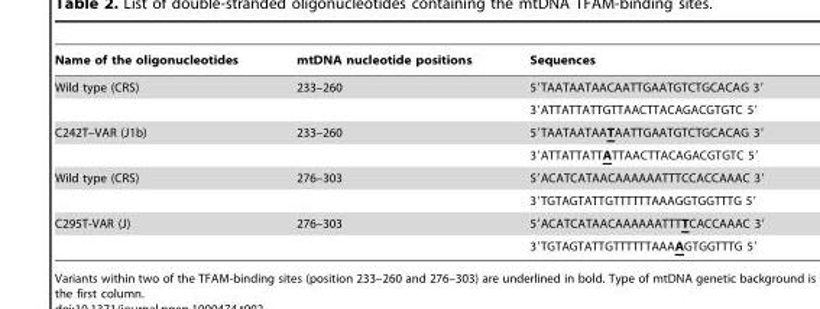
<table><thead><tr><td>Name of the oligonucleotides</td><td>mtDNA nucleotide positions</td><td>Sequences</td></tr></thead><tbody><tr><td rowspan="2">Wild type (CRS)</td><td>233–260</td><td>5′TAATAATAACAATTGAATGTCTGCACAG 3′</td></tr><tr><td></td><td>3′ATTATTATTGTTAACTTACAGACGTGTC 5′</td></tr><tr><td rowspan="2">C242T–VAR (J1b)</td><td>233–260</td><td>5′TAATAATAATAATTGAATGTCTGCACAG 3′</td></tr><tr><td></td><td>3′ATTATTATTATTAACTTACAGACGTGTC 5′</td></tr><tr><td rowspan="2">Wild type (CRS)</td><td>276–303</td><td>5′ACATCATAACAAAAAATTTCCACCAAAC 3′</td></tr><tr><td></td><td>3′TGTAGTATTGTTTTTTAAAGGTGGTTTG 5′</td></tr><tr><td rowspan="2">C295T-VAR (J)</td><td>276–303</td><td>5′ACATCATAACAAAAAATTTTCACCAAAC 3′</td></tr><tr><td></td><td>3′TGTAGTATTGTTTTTTAAAAGTGGTTTG 5′</td></tr></tbody></table>